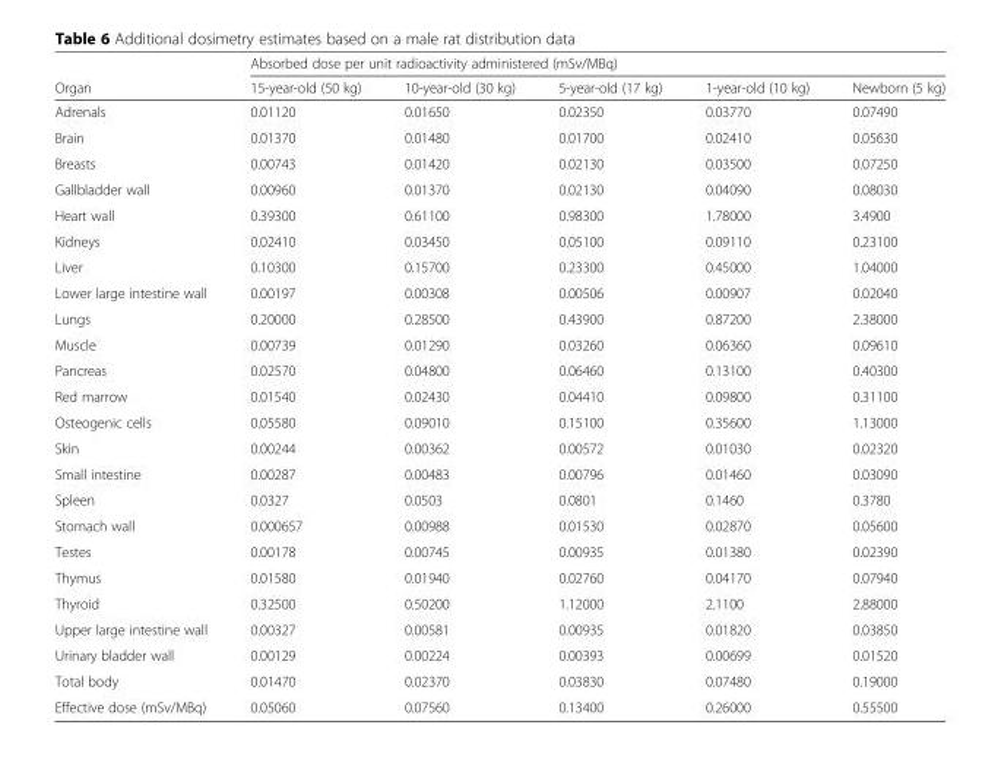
<table><thead><tr><td rowspan="2">Organ</td><td colspan="5">Absorbed dose per unit radioactivity administered (mSv/MBq)</td></tr><tr><td>15-year-old (50 kg)</td><td>10-year-old (30 kg)</td><td>5-year-old (17 kg)</td><td>1-year-old (10 kg)</td><td>Newborn (5 kg)</td></tr></thead><tbody><tr><td>Adrenals</td><td>0.01120</td><td>0.01650</td><td>0.02350</td><td>0.03770</td><td>0.07490</td></tr><tr><td>Brain</td><td>0.01370</td><td>0.01480</td><td>0.01700</td><td>0.02410</td><td>0.05630</td></tr><tr><td>Breasts</td><td>0.00743</td><td>0.01420</td><td>0.02130</td><td>0.03500</td><td>0.07250</td></tr><tr><td>Gallbladder wall</td><td>0.00960</td><td>0.01370</td><td>0.02130</td><td>0.04090</td><td>0.08030</td></tr><tr><td>Heart wall</td><td>0.39300</td><td>0.61100</td><td>0.98300</td><td>1.78000</td><td>3.4900</td></tr><tr><td>Kidneys</td><td>0.02410</td><td>0.03450</td><td>0.05100</td><td>0.09110</td><td>0.23100</td></tr><tr><td>Liver</td><td>0.10300</td><td>0.15700</td><td>0.23300</td><td>0.45000</td><td>1.04000</td></tr><tr><td>Lower large intestine wall</td><td>0.00197</td><td>0.00308</td><td>0.00506</td><td>0.00907</td><td>0.02040</td></tr><tr><td>Lungs</td><td>0.20000</td><td>0.28500</td><td>0.43900</td><td>0.87200</td><td>2.38000</td></tr><tr><td>Muscle</td><td>0.00739</td><td>0.01290</td><td>0.03260</td><td>0.06360</td><td>0.09610</td></tr><tr><td>Pancreas</td><td>0.02570</td><td>0.04800</td><td>0.06460</td><td>0.13100</td><td>0.40300</td></tr><tr><td>Red marrow</td><td>0.01540</td><td>0.02430</td><td>0.04410</td><td>0.09800</td><td>0.31100</td></tr><tr><td>Osteogenic cells</td><td>0.05580</td><td>0.09010</td><td>0.15100</td><td>0.35600</td><td>1.13000</td></tr><tr><td>Skin</td><td>0.00244</td><td>0.00362</td><td>0.00572</td><td>0.01030</td><td>0.02320</td></tr><tr><td>Small intestine</td><td>0.00287</td><td>0.00483</td><td>0.00796</td><td>0.01460</td><td>0.03090</td></tr><tr><td>Spleen</td><td>0.0327</td><td>0.0503</td><td>0.0801</td><td>0.1460</td><td>0.3780</td></tr><tr><td>Stomach wall</td><td>0.000657</td><td>0.00988</td><td>0.01530</td><td>0.02870</td><td>0.05600</td></tr><tr><td>Testes</td><td>0.00178</td><td>0.00745</td><td>0.00935</td><td>0.01380</td><td>0.02390</td></tr><tr><td>Thymus</td><td>0.01580</td><td>0.01940</td><td>0.02760</td><td>0.04170</td><td>0.07940</td></tr><tr><td>Thyroid</td><td>0.32500</td><td>0.50200</td><td>1.12000</td><td>2.1100</td><td>2.88000</td></tr><tr><td>Upper large intestine wall</td><td>0.00327</td><td>0.00581</td><td>0.00935</td><td>0.01820</td><td>0.03850</td></tr><tr><td>Urinary bladder wall</td><td>0.00129</td><td>0.00224</td><td>0.00393</td><td>0.00699</td><td>0.01520</td></tr><tr><td>Total body</td><td>0.01470</td><td>0.02370</td><td>0.03830</td><td>0.07480</td><td>0.19000</td></tr><tr><td>Effective dose (mSv/MBq)</td><td>0.05060</td><td>0.07560</td><td>0.13400</td><td>0.26000</td><td>0.55500</td></tr></tbody></table>